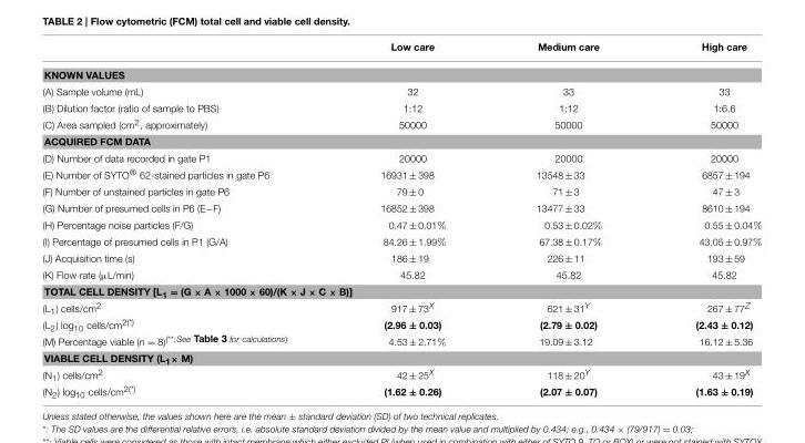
<table><thead><tr><td></td><td>Low care</td><td>Medium care</td><td>High care</td></tr></thead><tbody><tr><td colspan="4">KNOWN VALUES</td></tr><tr><td>(A) Sample volume (mL)</td><td>32</td><td>33</td><td>33</td></tr><tr><td>(B) Dilution factor (ratio of sample to PBS)</td><td>1:12</td><td>1:12</td><td>1:6.6</td></tr><tr><td>(C) Area sampled (cm<sup>2</sup>, approximately)</td><td>50000</td><td>50000</td><td>50000</td></tr><tr><td colspan="4">ACQUIRED FCM DATA</td></tr><tr><td>(D) Number of data recorded in gate P1</td><td>20000</td><td>20000</td><td>20000</td></tr><tr><td>(E) Number of SYTO® 62-stained particles in gate P6</td><td>16931 ± 398</td><td>13548 ± 33</td><td>6857 ± 194</td></tr><tr><td>(F) Number of unstained particles in gate P6</td><td>79 ± 0</td><td>71 ± 3</td><td>47 ± 3</td></tr><tr><td>(G) Number of presumed cells in P6 (E−F)</td><td>16852 ± 398</td><td>13477 ± 33</td><td>8610 ± 194</td></tr><tr><td>(H) Percentage noise particles (F/G)</td><td>0.47 ± 0.01%</td><td>0.53 ± 0.02%</td><td>0.55 ± 0.04%</td></tr><tr><td>(I) Percentage of presumed cells in P1 (G/A)</td><td>84.26 ± 1.99%</td><td>67.38 ± 0.17%</td><td>43.05 ± 0.97%</td></tr><tr><td>(J) Acquisition time (s)</td><td>186 ± 19</td><td>226 ± 11</td><td>193 ± 59</td></tr><tr><td>(K) Flow rate (µL/min)</td><td>45.82</td><td>45.82</td><td>45.82</td></tr><tr><td colspan="4">TOTAL CELL DENSITY [L<sub>1</sub> = (G × A × 1000 × 60)/(K × J × C × B)]</td></tr><tr><td>(L<sub>1</sub>) cells/cm<sup>2</sup></td><td>917 ± 73<sup>X</sup></td><td>621 ± 31<sup>Y</sup></td><td>267 ± 77<sup>Z</sup></td></tr><tr><td>(L<sub>2</sub>) log<sub>10</sub> cells/cm<sup>2</sup>(*)</td><td>(2.96 ± 0.03)</td><td>(2.79 ± 0.02)</td><td>(2.43 ± 0.12)</td></tr><tr><td>(M) Percentage viable (n = 8)<sup>(</sup>**<sup>;See Table 3 for calculations)</sup></td><td>4.53 ± 2.71%</td><td>19.09 ± 3.12</td><td>16.12 ± 5.36</td></tr><tr><td colspan="4">VIABLE CELL DENSITY (L<sub>1</sub>× M)</td></tr><tr><td>(N<sub>1</sub>) cells/cm<sup>2</sup></td><td>42 ± 25<sup>X</sup></td><td>118 ± 20<sup>Y</sup></td><td>43 ± 19<sup>X</sup></td></tr><tr><td>(N<sub>2</sub>) log<sub>10</sub> cells/cm<sup>2</sup>(*)</td><td>(1.62 ± 0.26)</td><td>(2.07 ± 0.07)</td><td>(1.63 ± 0.19)</td></tr></tbody></table>